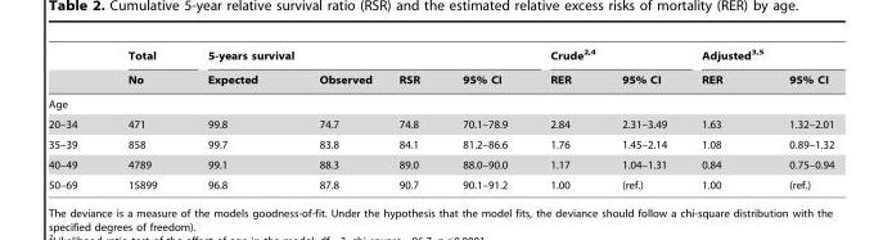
<table><thead><tr><td rowspan="2"></td><td rowspan="2">Total No</td><td colspan="4">5-years survival</td><td colspan="2">Crude<sup>2,4</sup></td><td colspan="2">Adjusted<sup>3,5</sup></td></tr><tr><td>Expected</td><td>Observed</td><td>RSR</td><td>95% CI</td><td>RER</td><td>95% CI</td><td>RER</td><td>95% CI</td></tr></thead><tbody><tr><td colspan="10">Age</td></tr><tr><td>20–34</td><td>471</td><td>99.8</td><td>74.7</td><td>74.8</td><td>70.1–78.9</td><td>2.84</td><td>2.31–3.49</td><td>1.63</td><td>1.32–2.01</td></tr><tr><td>35–39</td><td>858</td><td>99.7</td><td>83.8</td><td>84.1</td><td>81.2–86.6</td><td>1.76</td><td>1.45–2.14</td><td>1.08</td><td>0.89–1.32</td></tr><tr><td>40–49</td><td>4789</td><td>99.1</td><td>88.3</td><td>89.0</td><td>88.0–90.0</td><td>1.17</td><td>1.04–1.31</td><td>0.84</td><td>0.75–0.94</td></tr><tr><td>50–69</td><td>15899</td><td>96.8</td><td>87.8</td><td>90.7</td><td>90.1–91.2</td><td>1.00</td><td>(ref.)</td><td>1.00</td><td>(ref.)</td></tr></tbody></table>